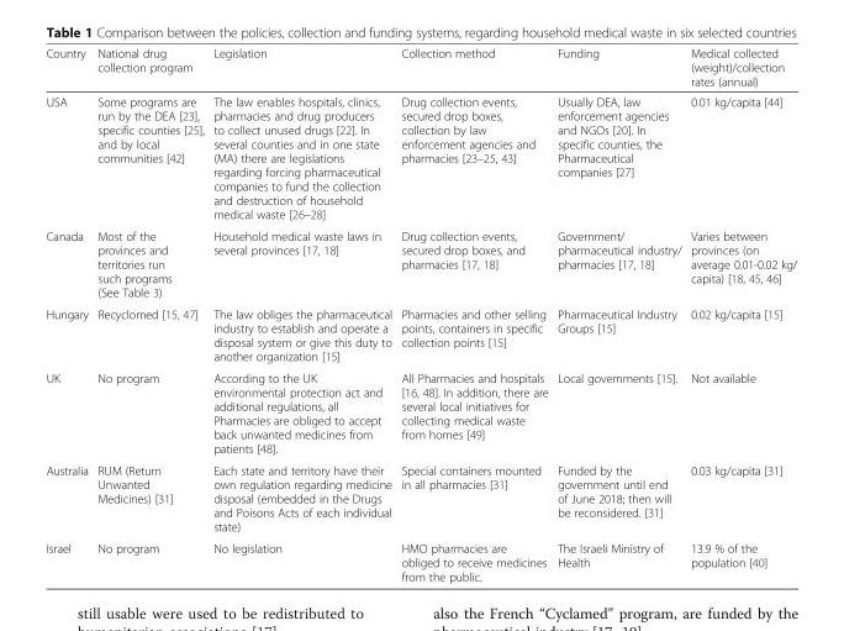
<table><thead><tr><td>Country</td><td>National drug collection program</td><td>Legislation</td><td>Collection method</td><td>Funding</td><td>Medical collected (weight)/collection rates (annual)</td></tr></thead><tbody><tr><td>USA</td><td>Some programs are run by the DEA [23], specific counties [25], and by local communities [42]</td><td>The law enables hospitals, clinics, pharmacies and drug producers to collect unused drugs [22]. In several counties and in one state (MA) there are legislations regarding forcing pharmaceutical companies to fund the collection and destruction of household medical waste [26–28]</td><td>Drug collection events, secured drop boxes, collection by law enforcement agencies and pharmacies [23–25, 43]</td><td>Usually DEA, law enforcement agencies and NGOs [20]. In specific counties, the Pharmaceutical companies [27]</td><td>0.01 kg/capita [44]</td></tr><tr><td>Canada</td><td>Most of the provinces and territories run such programs (See Table 3)</td><td>Household medical waste laws in several provinces [17, 18]</td><td>Drug collection events, secured drop boxes, and pharmacies [17, 18]</td><td>Government/ pharmaceutical industry/ pharmacies [17, 18]</td><td>Varies between provinces (on average 0.01-0.02 kg/ capita) [18, 45, 46]</td></tr><tr><td>Hungary</td><td>Recyclomed [15, 47]</td><td>The law obliges the pharmaceutical industry to establish and operate a disposal system or give this duty to another organization [15]</td><td>Pharmacies and other selling points, containers in specific collection points [15]</td><td>Pharmaceutical Industry Groups [15]</td><td>0.02 kg/capita [15]</td></tr><tr><td>UK</td><td>No program</td><td>According to the UK environmental protection act and additional regulations, all Pharmacies are obliged to accept back unwanted medicines from patients [48].</td><td>All Pharmacies and hospitals [16, 48]. In addition, there are several local initiatives for collecting medical waste from homes [49]</td><td>Local governments [15].</td><td>Not available</td></tr><tr><td>Australia</td><td>RUM (Return Unwanted Medicines) [31]</td><td>Each state and territory have their own regulation regarding medicine disposal (embedded in the Drugs and Poisons Acts of each individual state)</td><td>Special containers mounted in all pharmacies [31]</td><td>Funded by the government until end of June 2018; then will be reconsidered. [31]</td><td>0.03 kg/capita [31]</td></tr><tr><td>Israel</td><td>No program</td><td>No legislation</td><td>HMO pharmacies are obliged to receive medicines from the public.</td><td>The Israeli Ministry of Health</td><td>13.9 % of the population [40]</td></tr></tbody></table>